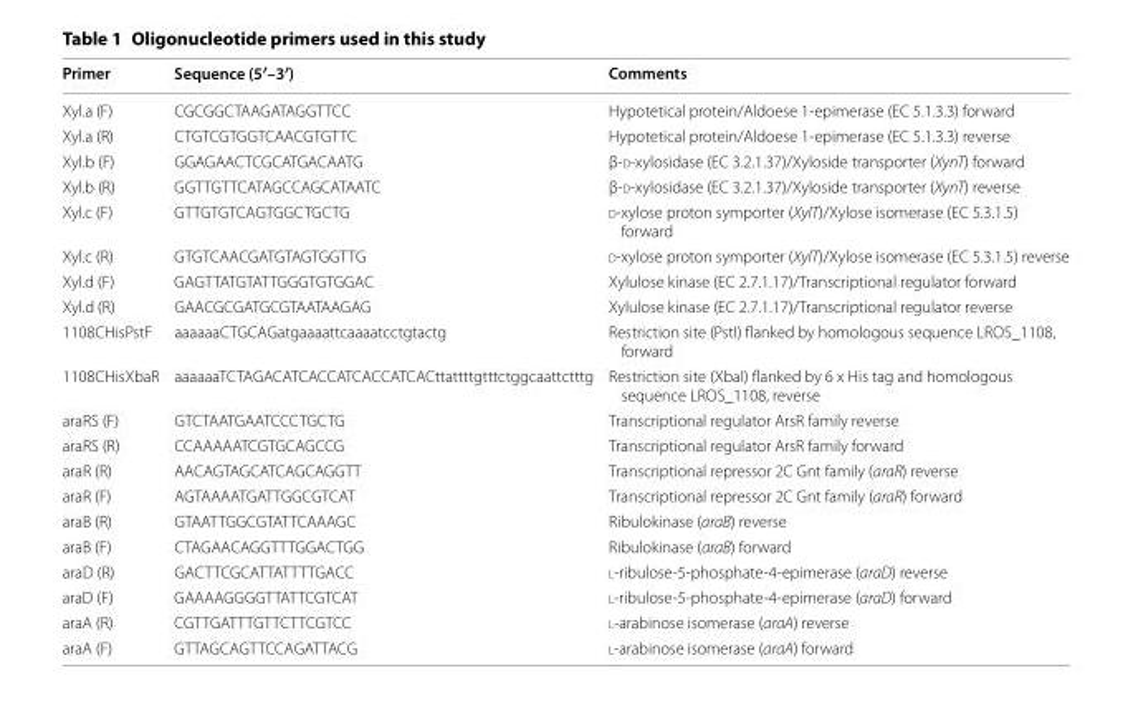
<table><thead><tr><td>Primer</td><td>Sequence (5′–3′)</td><td>Comments</td></tr></thead><tbody><tr><td>Xyl.a (F)</td><td>CGCGGCTAAGATAGGTTCC</td><td>Hypotetical protein/Aldoese 1-epimerase (EC 5.1.3.3) forward</td></tr><tr><td>Xyl.a (R)</td><td>CTGTCGTGGTCAACGTGTTC</td><td>Hypotetical protein/Aldoese 1-epimerase (EC 5.1.3.3) reverse</td></tr><tr><td>Xyl.b (F)</td><td>GGAGAACTCGCATGACAATG</td><td>β-d-xylosidase (EC 3.2.1.37)/Xyloside transporter (XynT) forward</td></tr><tr><td>Xyl.b (R)</td><td>GGTTGTTCATAGCCAGCATAATC</td><td>β-d-xylosidase (EC 3.2.1.37)/Xyloside transporter (XynT) reverse</td></tr><tr><td>Xyl.c (F)</td><td>GTTGTGTCAGTGGCTGCTG</td><td>d-xylose proton symporter (XylT)/Xylose isomerase (EC 5.3.1.5) forward</td></tr><tr><td>Xyl.c (R)</td><td>GTGTCAACGATGTAGTGGTTG</td><td>d-xylose proton symporter (XylT)/Xylose isomerase (EC 5.3.1.5) reverse</td></tr><tr><td>Xyl.d (F)</td><td>GAGTTATGTATTGGGTGTGGAC</td><td>Xylulose kinase (EC 2.7.1.17)/Transcriptional regulator forward</td></tr><tr><td>Xyl.d (R)</td><td>GAACGCGATGCGTAATAAGAG</td><td>Xylulose kinase (EC 2.7.1.17)/Transcriptional regulator reverse</td></tr><tr><td>1108CHisPstF</td><td>aaaaaaCTGCAGatgaaaattcaaaatcctgtactg</td><td>Restriction site (PstI) flanked by homologous sequence LROS_1108, forward</td></tr><tr><td>1108CHisXbaR</td><td>aaaaaaTCTAGACATCACCATCACCATCACttattttgtttctggcaattctttg</td><td>Restriction site (XbaI) flanked by 6 x His tag and homologous sequence LROS_1108, reverse</td></tr><tr><td>araRS (F)</td><td>GTCTAATGAATCCCTGCTG</td><td>Transcriptional regulator ArsR family reverse</td></tr><tr><td>araRS (R)</td><td>CCAAAAATCGTGCAGCCG</td><td>Transcriptional regulator ArsR family forward</td></tr><tr><td>araR (R)</td><td>AACAGTAGCATCAGCAGGTT</td><td>Transcriptional repressor 2C Gnt family (araR) reverse</td></tr><tr><td>araR (F)</td><td>AGTAAAATGATTGGCGTCAT</td><td>Transcriptional repressor 2C Gnt family (araR) forward</td></tr><tr><td>araB (R)</td><td>GTAATTGGCGTATTCAAAGC</td><td>Ribulokinase (araB) reverse</td></tr><tr><td>araB (F)</td><td>CTAGAACAGGTTTGGACTGG</td><td>Ribulokinase (araB) forward</td></tr><tr><td>araD (R)</td><td>GACTTCGCATTATTTTGACC</td><td>l-ribulose-5-phosphate-4-epimerase (araD) reverse</td></tr><tr><td>araD (F)</td><td>GAAAAGGGGTTATTCGTCAT</td><td>l-ribulose-5-phosphate-4-epimerase (araD) forward</td></tr><tr><td>araA (R)</td><td>CGTTGATTTGTTCTTCGTCC</td><td>l-arabinose isomerase (araA) reverse</td></tr><tr><td>araA (F)</td><td>GTTAGCAGTTCCAGATTACG</td><td>l-arabinose isomerase (araA) forward</td></tr></tbody></table>